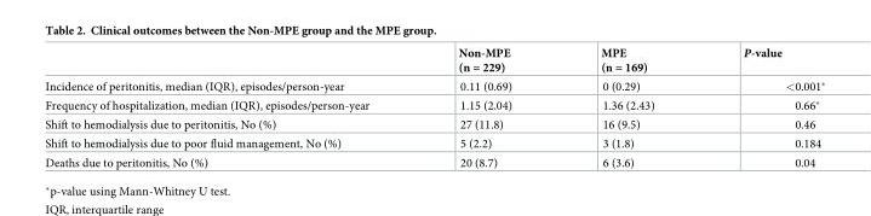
<table><thead><tr><td></td><td>Non-MPE (n = 229)</td><td>MPE (n = 169)</td><td>P-value</td></tr></thead><tbody><tr><td>Incidence of peritonitis, median (IQR), episodes/person-year</td><td>0.11 (0.69)</td><td>0 (0.29)</td><td>&lt;0.001*</td></tr><tr><td>Frequency of hospitalization, median (IQR), episodes/person-year</td><td>1.15 (2.04)</td><td>1.36 (2.43)</td><td>0.66*</td></tr><tr><td>Shift to hemodialysis due to peritonitis, No (%)</td><td>27 (11.8)</td><td>16 (9.5)</td><td>0.46</td></tr><tr><td>Shift to hemodialysis due to poor fluid management, No (%)</td><td>5 (2.2)</td><td>3 (1.8)</td><td>0.184</td></tr><tr><td>Deaths due to peritonitis, No (%)</td><td>20 (8.7)</td><td>6 (3.6)</td><td>0.04</td></tr></tbody></table>